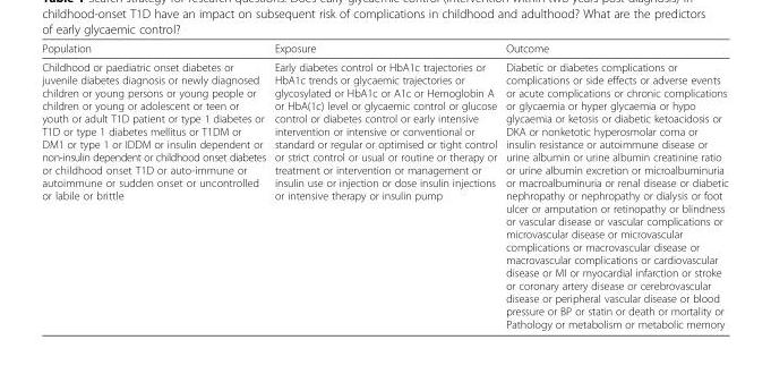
<table><thead><tr><td>Population</td><td>Exposure</td><td>Outcome</td></tr></thead><tbody><tr><td>Childhood or paediatric onset diabetes or juvenile diabetes diagnosis or newly diagnosed children or young persons or young people or children or young or adolescent or teen or youth or adult T1D patient or type 1 diabetes or T1D or type 1 diabetes mellitus or T1DM or DM1 or type 1 or IDDM or insulin dependent or non-insulin dependent or childhood onset diabetes or childhood onset T1D or auto-immune or autoimmune or sudden onset or uncontrolled or labile or brittle</td><td>Early diabetes control or HbA1c trajectories or HbA1c trends or glycaemic trajectories or glycosylated or HbA1c or A1c or Hemoglobin A or HbA(1c) level or glycaemic control or glucose control or diabetes control or early intensive intervention or intensive or conventional or standard or regular or optimised or tight control or strict control or usual or routine or therapy or treatment or intervention or management or insulin use or injection or dose insulin injections or intensive therapy or insulin pump</td><td>Diabetic or diabetes complications or complications or side effects or adverse events or acute complications or chronic complications or glycaemia or hyper glycaemia or hypo glycaemia or ketosis or diabetic ketoacidosis or DKA or nonketotic hyperosmolar coma or insulin resistance or autoimmune disease or urine albumin or urine albumin creatinine ratio or urine albumin excretion or microalbuminuria or macroalbuminuria or renal disease or diabetic nephropathy or nephropathy or dialysis or foot ulcer or amputation or retinopathy or blindness or vascular disease or vascular complications or microvascular disease or microvascular complications or macrovascular disease or macrovascular complications or cardiovascular disease or MI or myocardial infarction or stroke or coronary artery disease or cerebrovascular disease or peripheral vascular disease or blood pressure or BP or statin or death or mortality or Pathology or metabolism or metabolic memory</td></tr></tbody></table>